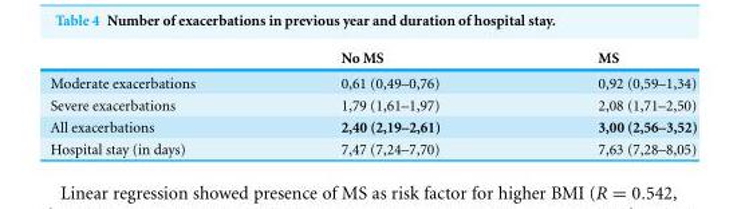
<table><thead><tr><td></td><td>No MS</td><td>MS</td></tr></thead><tbody><tr><td>Moderate exacerbations</td><td>0,61 (0,49–0,76)</td><td>0,92 (0,59–1,34)</td></tr><tr><td>Severe exacerbations</td><td>1,79 (1,61–1,97)</td><td>2,08 (1,71–2,50)</td></tr><tr><td>All exacerbations</td><td>2,40 (2,19–2,61)</td><td>3,00 (2,56–3,52)</td></tr><tr><td>Hospital stay (in days)</td><td>7,47 (7,24–7,70)</td><td>7,63 (7,28–8,05)</td></tr></tbody></table>